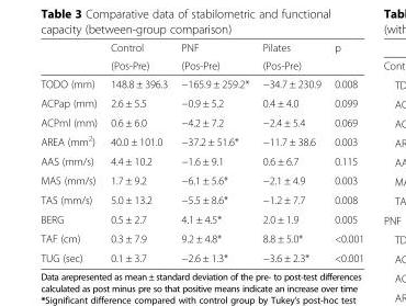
<table><thead><tr><td rowspan="2"></td><td rowspan="2">Control (Pos-Pre)</td><td rowspan="2">PNF (Pos-Pre)</td><td rowspan="2">Pilates (Pos-Pre)</td><td rowspan="2">p</td></tr><tr></tr></thead><tbody><tr><td>TODO (mm)</td><td>148.8 ± 396.3</td><td>−165.9 ± 259.2*</td><td>−34.7 ± 230.9</td><td>0.008</td></tr><tr><td>ACPap (mm)</td><td>2.6 ± 5.5</td><td>−0.9 ± 5.2</td><td>0.4 ± 4.0</td><td>0.099</td></tr><tr><td>ACPml (mm)</td><td>0.6 ± 6.0</td><td>−4.2 ± 7.2</td><td>−2.4 ± 5.4</td><td>0.069</td></tr><tr><td>AREA (mm<sup>2</sup>)</td><td>40.0 ± 101.0</td><td>−37.2 ± 51.6*</td><td>−11.7 ± 38.6</td><td>0.003</td></tr><tr><td>AAS (mm/s)</td><td>4.4 ± 10.2</td><td>−1.6 ± 9.1</td><td>0.6 ± 6.7</td><td>0.115</td></tr><tr><td>MAS (mm/s)</td><td>1.7 ± 9.2</td><td>−6.1 ± 5.6*</td><td>−2.1 ± 4.9</td><td>0.003</td></tr><tr><td>TAS (mm/s)</td><td>5.0 ± 13.2</td><td>−5.5 ± 8.6*</td><td>−1.2 ± 7.7</td><td>0.008</td></tr><tr><td>BERG</td><td>0.5 ± 2.7</td><td>4.1 ± 4.5*</td><td>2.0 ± 1.9</td><td>0.005</td></tr><tr><td>TAF (cm)</td><td>0.3 ± 7.9</td><td>9.2 ± 4.8*</td><td>8.8 ± 5.0*</td><td>&lt;0.001</td></tr><tr><td>TUG (sec)</td><td>0.1 ± 3.7</td><td>−2.6 ± 1.3*</td><td>−3.6 ± 2.3*</td><td>&lt;0.001</td></tr></tbody></table>